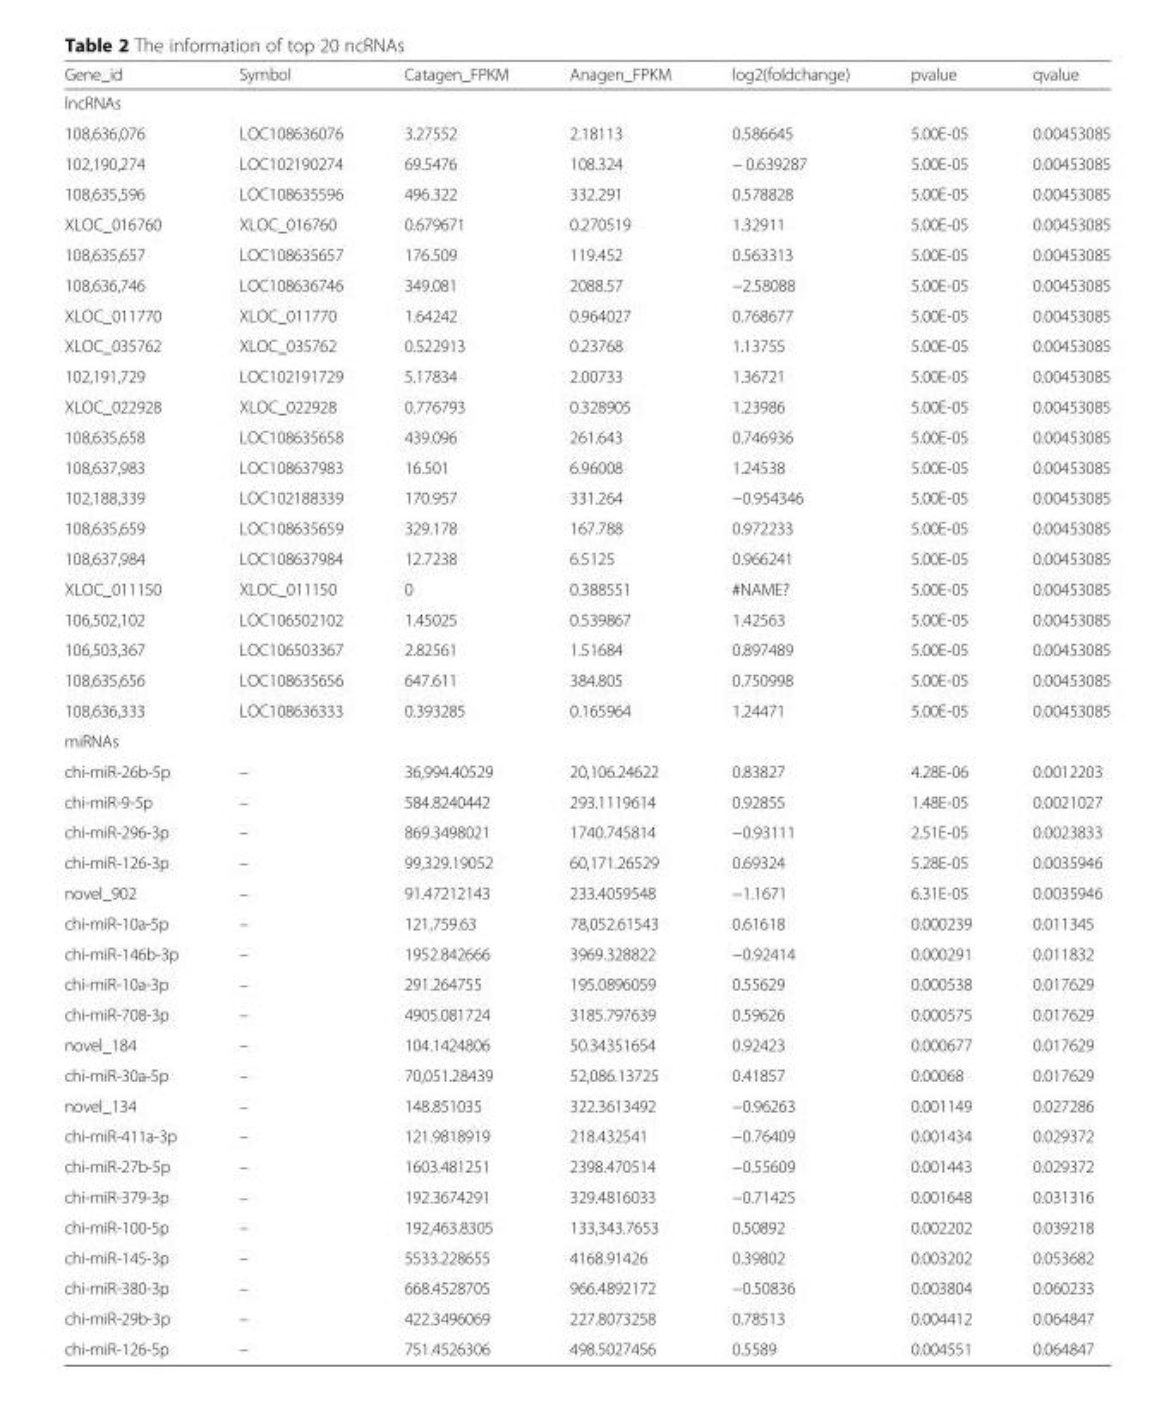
<table><thead><tr><td>Gene_id</td><td>Symbol</td><td>Catagen_FPKM</td><td>Anagen_FPKM</td><td>log2(foldchange)</td><td>pvalue</td><td>qvalue</td></tr></thead><tbody><tr><td colspan="7">lncRNAs</td></tr><tr><td>108,636,076</td><td>LOC108636076</td><td>3.27552</td><td>2.18113</td><td>0.586645</td><td>5.00E-05</td><td>0.00453085</td></tr><tr><td>102,190,274</td><td>LOC102190274</td><td>69.5476</td><td>108.324</td><td>− 0.639287</td><td>5.00E-05</td><td>0.00453085</td></tr><tr><td>108,635,596</td><td>LOC108635596</td><td>496.322</td><td>332.291</td><td>0.578828</td><td>5.00E-05</td><td>0.00453085</td></tr><tr><td>XLOC_016760</td><td>XLOC_016760</td><td>0.679671</td><td>0.270519</td><td>1.32911</td><td>5.00E-05</td><td>0.00453085</td></tr><tr><td>108,635,657</td><td>LOC108635657</td><td>176.509</td><td>119.452</td><td>0.563313</td><td>5.00E-05</td><td>0.00453085</td></tr><tr><td>108,636,746</td><td>LOC108636746</td><td>349.081</td><td>2088.57</td><td>−2.58088</td><td>5.00E-05</td><td>0.00453085</td></tr><tr><td>XLOC_011770</td><td>XLOC_011770</td><td>1.64242</td><td>0.964027</td><td>0.768677</td><td>5.00E-05</td><td>0.00453085</td></tr><tr><td>XLOC_035762</td><td>XLOC_035762</td><td>0.522913</td><td>0.23768</td><td>1.13755</td><td>5.00E-05</td><td>0.00453085</td></tr><tr><td>102,191,729</td><td>LOC102191729</td><td>5.17834</td><td>2.00733</td><td>1.36721</td><td>5.00E-05</td><td>0.00453085</td></tr><tr><td>XLOC_022928</td><td>XLOC_022928</td><td>0.776793</td><td>0.328905</td><td>1.23986</td><td>5.00E-05</td><td>0.00453085</td></tr><tr><td>108,635,658</td><td>LOC108635658</td><td>439.096</td><td>261.643</td><td>0.746936</td><td>5.00E-05</td><td>0.00453085</td></tr><tr><td>108,637,983</td><td>LOC108637983</td><td>16.501</td><td>6.96008</td><td>1.24538</td><td>5.00E-05</td><td>0.00453085</td></tr><tr><td>102,188,339</td><td>LOC102188339</td><td>170.957</td><td>331.264</td><td>−0.954346</td><td>5.00E-05</td><td>0.00453085</td></tr><tr><td>108,635,659</td><td>LOC108635659</td><td>329.178</td><td>167.788</td><td>0.972233</td><td>5.00E-05</td><td>0.00453085</td></tr><tr><td>108,637,984</td><td>LOC108637984</td><td>12.7238</td><td>6.5125</td><td>0.966241</td><td>5.00E-05</td><td>0.00453085</td></tr><tr><td>XLOC_011150</td><td>XLOC_011150</td><td>0</td><td>0.388551</td><td>#NAME?</td><td>5.00E-05</td><td>0.00453085</td></tr><tr><td>106,502,102</td><td>LOC106502102</td><td>1.45025</td><td>0.539867</td><td>1.42563</td><td>5.00E-05</td><td>0.00453085</td></tr><tr><td>106,503,367</td><td>LOC106503367</td><td>2.82561</td><td>1.51684</td><td>0.897489</td><td>5.00E-05</td><td>0.00453085</td></tr><tr><td>108,635,656</td><td>LOC108635656</td><td>647.611</td><td>384.805</td><td>0.750998</td><td>5.00E-05</td><td>0.00453085</td></tr><tr><td>108,636,333</td><td>LOC108636333</td><td>0.393285</td><td>0.165964</td><td>1.24471</td><td>5.00E-05</td><td>0.00453085</td></tr><tr><td colspan="7">miRNAs</td></tr><tr><td>chi-miR-26b-5p</td><td>–</td><td>36,994.40529</td><td>20,106.24622</td><td>0.83827</td><td>4.28E-06</td><td>0.0012203</td></tr><tr><td>chi-miR-9-5p</td><td>–</td><td>584.8240442</td><td>293.1119614</td><td>0.92855</td><td>1.48E-05</td><td>0.0021027</td></tr><tr><td>chi-miR-296-3p</td><td>–</td><td>869.3498021</td><td>1740.745814</td><td>−0.93111</td><td>2.51E-05</td><td>0.0023833</td></tr><tr><td>chi-miR-126-3p</td><td>–</td><td>99,329.19052</td><td>60,171.26529</td><td>0.69324</td><td>5.28E-05</td><td>0.0035946</td></tr><tr><td>novel_902</td><td>–</td><td>91.47212143</td><td>233.4059548</td><td>−1.1671</td><td>6.31E-05</td><td>0.0035946</td></tr><tr><td>chi-miR-10a-5p</td><td>–</td><td>121,759.63</td><td>78,052.61543</td><td>0.61618</td><td>0.000239</td><td>0.011345</td></tr><tr><td>chi-miR-146b-3p</td><td>–</td><td>1952.842666</td><td>3969.328822</td><td>−0.92414</td><td>0.000291</td><td>0.011832</td></tr><tr><td>chi-miR-10a-3p</td><td>–</td><td>291.264755</td><td>195.0896059</td><td>0.55629</td><td>0.000538</td><td>0.017629</td></tr><tr><td>chi-miR-708-3p</td><td>–</td><td>4905.081724</td><td>3185.797639</td><td>0.59626</td><td>0.000575</td><td>0.017629</td></tr><tr><td>novel_184</td><td>–</td><td>104.1424806</td><td>50.34351654</td><td>0.92423</td><td>0.000677</td><td>0.017629</td></tr><tr><td>chi-miR-30a-5p</td><td>–</td><td>70,051.28439</td><td>52,086.13725</td><td>0.41857</td><td>0.00068</td><td>0.017629</td></tr><tr><td>novel_134</td><td>–</td><td>148.851035</td><td>322.3613492</td><td>−0.96263</td><td>0.001149</td><td>0.027286</td></tr><tr><td>chi-miR-411a-3p</td><td>–</td><td>121.9818919</td><td>218.432541</td><td>−0.76409</td><td>0.001434</td><td>0.029372</td></tr><tr><td>chi-miR-27b-5p</td><td>–</td><td>1603.481251</td><td>2398.470514</td><td>−0.55609</td><td>0.001443</td><td>0.029372</td></tr><tr><td>chi-miR-379-3p</td><td>–</td><td>192.3674291</td><td>329.4816033</td><td>−0.71425</td><td>0.001648</td><td>0.031316</td></tr><tr><td>chi-miR-100-5p</td><td>–</td><td>192,463.8305</td><td>133,343.7653</td><td>0.50892</td><td>0.002202</td><td>0.039218</td></tr><tr><td>chi-miR-145-3p</td><td>–</td><td>5533.228655</td><td>4168.91426</td><td>0.39802</td><td>0.003202</td><td>0.053682</td></tr><tr><td>chi-miR-380-3p</td><td>–</td><td>668.4528705</td><td>966.4892172</td><td>−0.50836</td><td>0.003804</td><td>0.060233</td></tr><tr><td>chi-miR-29b-3p</td><td>–</td><td>422.3496069</td><td>227.8073258</td><td>0.78513</td><td>0.004412</td><td>0.064847</td></tr><tr><td>chi-miR-126-5p</td><td>–</td><td>751.4526306</td><td>498.5027456</td><td>0.5589</td><td>0.004551</td><td>0.064847</td></tr></tbody></table>